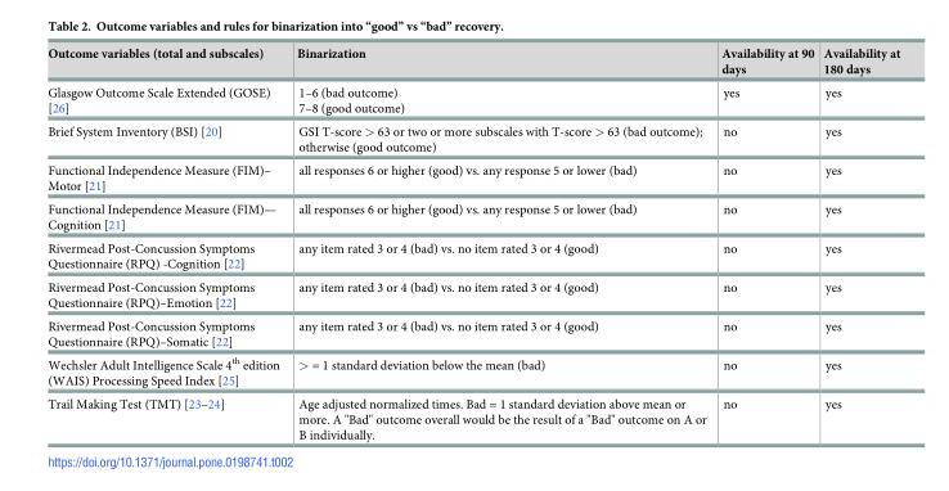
<table><thead><tr><td>Outcome variables (total and subscales)</td><td>Binarization</td><td>Availability at 90 days</td><td>Availability at 180 days</td></tr></thead><tbody><tr><td>Glasgow Outcome Scale Extended (GOSE) [26]</td><td>1–6 (bad outcome) 7–8 (good outcome)</td><td>yes</td><td>yes</td></tr><tr><td>Brief System Inventory (BSI) [20]</td><td>GSI T-score &gt; 63 or two or more subscales with T-score &gt; 63 (bad outcome); otherwise (good outcome)</td><td>no</td><td>yes</td></tr><tr><td>Functional Independence Measure (FIM)– Motor [21]</td><td>all responses 6 or higher (good) vs. any response 5 or lower (bad)</td><td>no</td><td>yes</td></tr><tr><td>Functional Independence Measure (FIM)— Cognition [21]</td><td>all responses 6 or higher (good) vs. any response 5 or lower (bad)</td><td>no</td><td>yes</td></tr><tr><td>Rivermead Post-Concussion Symptoms Questionnaire (RPQ) -Cognition [22]</td><td>any item rated 3 or 4 (bad) vs. no item rated 3 or 4 (good)</td><td>no</td><td>yes</td></tr><tr><td>Rivermead Post-Concussion Symptoms Questionnaire (RPQ)–Emotion [22]</td><td>any item rated 3 or 4 (bad) vs. no item rated 3 or 4 (good)</td><td>no</td><td>yes</td></tr><tr><td>Rivermead Post-Concussion Symptoms Questionnaire (RPQ)–Somatic [22]</td><td>any item rated 3 or 4 (bad) vs. no item rated 3 or 4 (good)</td><td>no</td><td>yes</td></tr><tr><td>Wechsler Adult Intelligence Scale 4<sup>th</sup> edition (WAIS) Processing Speed Index [25]</td><td>&gt; = 1 standard deviation below the mean (bad)</td><td>no</td><td>yes</td></tr><tr><td>Trail Making Test (TMT) [23–24]</td><td>Age adjusted normalized times. Bad = 1 standard deviation above mean or more. A &quot;Bad&quot; outcome overall would be the result of a &quot;Bad&quot; outcome on A or B individually.</td><td>no</td><td>yes</td></tr></tbody></table>